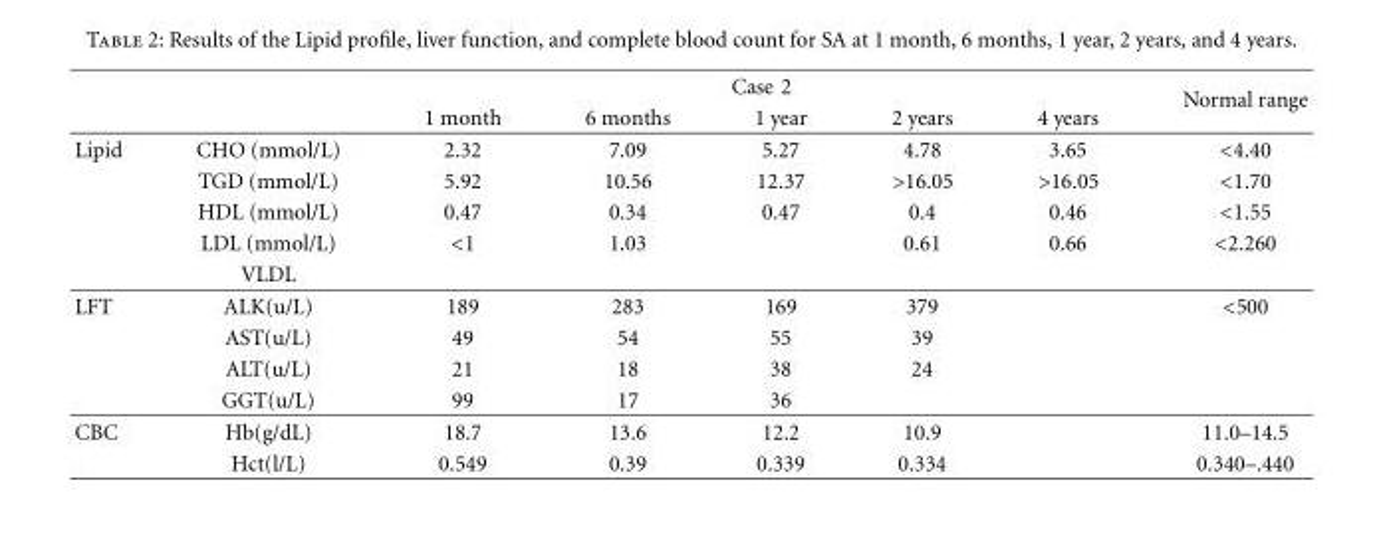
<table><thead><tr><td rowspan="2"></td><td rowspan="2"></td><td colspan="5">Case 2</td><td rowspan="2">Normal range</td></tr><tr><td>1 month</td><td>6 months</td><td>1 year</td><td>2 years</td><td>4 years</td></tr></thead><tbody><tr><td rowspan="5">Lipid</td><td>CHO (mmol/L)</td><td>2.32</td><td>7.09</td><td>5.27</td><td>4.78</td><td>3.65</td><td>&lt;4.40</td></tr><tr><td>TGD (mmol/L)</td><td>5.92</td><td>10.56</td><td>12.37</td><td>&gt;16.05</td><td>&gt;16.05</td><td>&lt;1.70</td></tr><tr><td>HDL (mmol/L)</td><td>0.47</td><td>0.34</td><td>0.47</td><td>0.4</td><td>0.46</td><td>&lt;1.55</td></tr><tr><td>LDL (mmol/L)</td><td>&lt;1</td><td>1.03</td><td></td><td>0.61</td><td>0.66</td><td>&lt;2.260</td></tr><tr><td>VLDL</td><td></td><td></td><td></td><td></td><td></td><td></td></tr><tr><td rowspan="4">LFT</td><td>ALK(u/L)</td><td>189</td><td>283</td><td>169</td><td>379</td><td></td><td>&lt;500</td></tr><tr><td>AST(u/L)</td><td>49</td><td>54</td><td>55</td><td>39</td><td></td><td></td></tr><tr><td>ALT(u/L)</td><td>21</td><td>18</td><td>38</td><td>24</td><td></td><td></td></tr><tr><td>GGT(u/L)</td><td>99</td><td>17</td><td>36</td><td></td><td></td><td></td></tr><tr><td rowspan="2">CBC</td><td>Hb(g/dL)</td><td>18.7</td><td>13.6</td><td>12.2</td><td>10.9</td><td></td><td>11.0–14.5</td></tr><tr><td>Hct(l/L)</td><td>0.549</td><td>0.39</td><td>0.339</td><td>0.334</td><td></td><td>0.340–.440</td></tr></tbody></table>